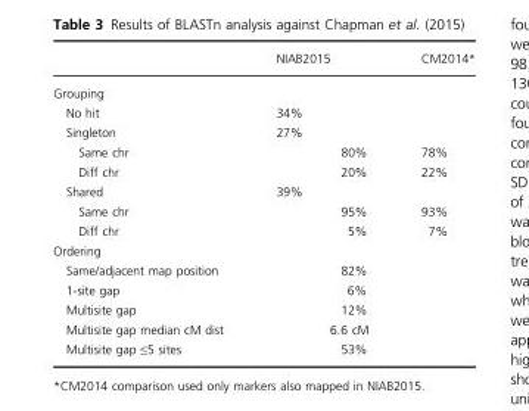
<table><thead><tr><td></td><td>NIAB2015</td><td>CM2014*</td></tr></thead><tbody><tr><td colspan="3">Grouping</td></tr><tr><td>No hit</td><td>34%</td><td></td></tr><tr><td>Singleton</td><td>27%</td><td></td></tr><tr><td>Same chr</td><td>80%</td><td>78%</td></tr><tr><td>Diff chr</td><td>20%</td><td>22%</td></tr><tr><td>Shared</td><td>39%</td><td></td></tr><tr><td>Same chr</td><td>95%</td><td>93%</td></tr><tr><td>Diff chr</td><td>5%</td><td>7%</td></tr><tr><td colspan="3">Ordering</td></tr><tr><td>Same/adjacent map position</td><td>82%</td><td></td></tr><tr><td>1-site gap</td><td>6%</td><td></td></tr><tr><td>Multisite gap</td><td>12%</td><td></td></tr><tr><td>Multisite gap median cM dist</td><td>6.6 cM</td><td></td></tr><tr><td>Multisite gap ≤5 sites</td><td>53%</td><td></td></tr></tbody></table>